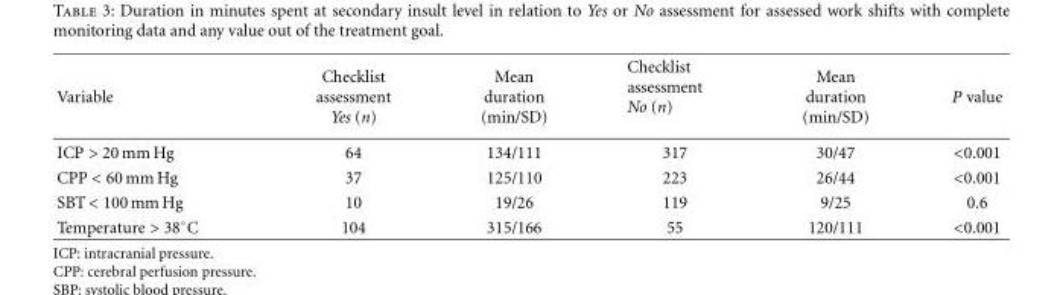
<table><thead><tr><td>Variable</td><td>Checklist assessment Yes (n)</td><td>Mean duration (min/SD)</td><td>Checklist assessment No (n)</td><td>Mean duration (min/SD)</td><td>P value</td></tr></thead><tbody><tr><td>ICP &gt; 20 mm Hg</td><td>64</td><td>134/111</td><td>317</td><td>30/47</td><td>&lt;0.001</td></tr><tr><td>CPP &lt; 60 mm Hg</td><td>37</td><td>125/110</td><td>223</td><td>26/44</td><td>&lt;0.001</td></tr><tr><td>SBT &lt; 100 mm Hg</td><td>10</td><td>19/26</td><td>119</td><td>9/25</td><td>0.6</td></tr><tr><td>Temperature &gt; 38◦C</td><td>104</td><td>315/166</td><td>55</td><td>120/111</td><td>&lt;0.001</td></tr></tbody></table>